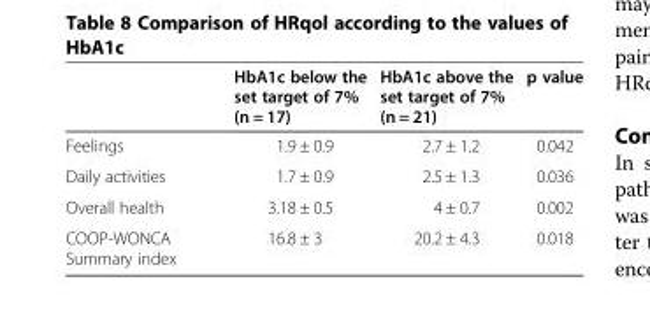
<table><thead><tr><td></td><td>HbA1c below the set target of 7% (n = 17)</td><td>HbA1c above the set target of 7% (n = 21)</td><td>p value</td></tr></thead><tbody><tr><td>Feelings</td><td>1.9 ± 0.9</td><td>2.7 ± 1.2</td><td>0.042</td></tr><tr><td>Daily activities</td><td>1.7 ± 0.9</td><td>2.5 ± 1.3</td><td>0.036</td></tr><tr><td>Overall health</td><td>3.18 ± 0.5</td><td>4 ± 0.7</td><td>0.002</td></tr><tr><td>COOP-WONCA Summary index</td><td>16.8 ± 3</td><td>20.2 ± 4.3</td><td>0.018</td></tr></tbody></table>